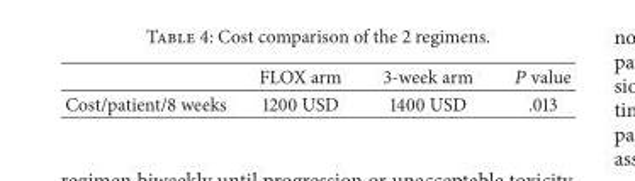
<table><thead><tr><td></td><td>FLOX arm</td><td>3-week arm</td><td>value</td></tr></thead><tbody><tr><td>Cost/patient/8 weeks</td><td>1200 USD</td><td>1400 USD</td><td>.013</td></tr></tbody></table>